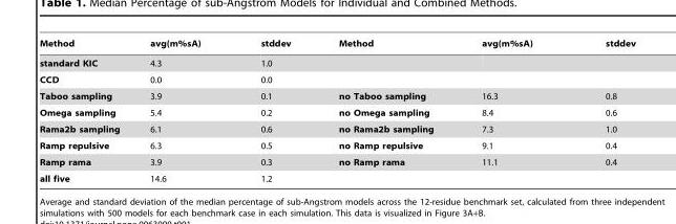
<table><thead><tr><td>Method</td><td>avg(m%sA)</td><td>stddev</td><td>Method</td><td>avg(m%sA)</td><td>stddev</td></tr></thead><tbody><tr><td>standard KIC</td><td>4.3</td><td>1.0</td><td></td><td></td><td></td></tr><tr><td>CCD</td><td>0.0</td><td>0.0</td><td></td><td></td><td></td></tr><tr><td>Taboo sampling</td><td>3.9</td><td>0.1</td><td>no Taboo sampling</td><td>16.3</td><td>0.8</td></tr><tr><td>Omega sampling</td><td>5.4</td><td>0.2</td><td>no Omega sampling</td><td>8.4</td><td>0.6</td></tr><tr><td>Rama2b sampling</td><td>6.1</td><td>0.6</td><td>no Rama2b sampling</td><td>7.3</td><td>1.0</td></tr><tr><td>Ramp repulsive</td><td>6.3</td><td>0.5</td><td>no Ramp repulsive</td><td>9.1</td><td>0.4</td></tr><tr><td>Ramp rama</td><td>3.9</td><td>0.3</td><td>no Ramp rama</td><td>11.1</td><td>0.4</td></tr><tr><td>all five</td><td>14.6</td><td>1.2</td><td></td><td></td><td></td></tr></tbody></table>